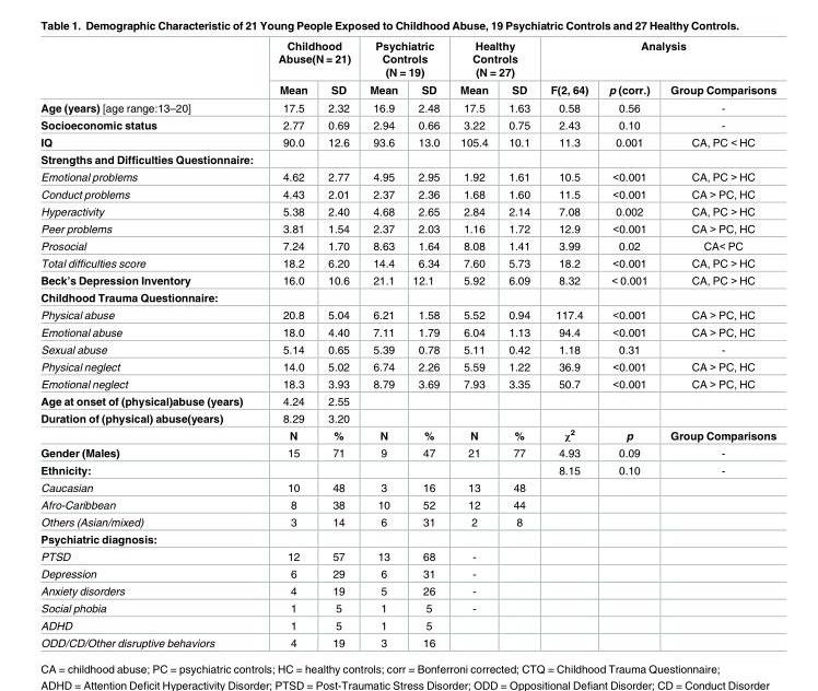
<table><thead><tr><td rowspan="2"></td><td colspan="2">Childhood Abuse(N = 21)</td><td colspan="2">Psychiatric Controls (N = 19)</td><td colspan="2">Healthy Controls (N = 27)</td><td colspan="3">Analysis</td></tr><tr><td>Mean</td><td>SD</td><td>Mean</td><td>SD</td><td>Mean</td><td>SD</td><td>F(2, 64)</td><td>p (corr.)</td><td>Group Comparisons</td></tr></thead><tbody><tr><td>Age (years) [age range:13–20]</td><td>17.5</td><td>2.32</td><td>16.9</td><td>2.48</td><td>17.5</td><td>1.63</td><td>0.58</td><td>0.56</td><td>-</td></tr><tr><td>Socioeconomic status</td><td>2.77</td><td>0.69</td><td>2.94</td><td>0.66</td><td>3.22</td><td>0.75</td><td>2.43</td><td>0.10</td><td>-</td></tr><tr><td>IQ</td><td>90.0</td><td>12.6</td><td>93.6</td><td>13.0</td><td>105.4</td><td>10.1</td><td>11.3</td><td>0.001</td><td>CA, PC &lt; HC</td></tr><tr><td colspan="10">Strengths and Difficulties Questionnaire:</td></tr><tr><td>Emotional problems</td><td>4.62</td><td>2.77</td><td>4.95</td><td>2.95</td><td>1.92</td><td>1.61</td><td>10.5</td><td>&lt;0.001</td><td>CA, PC &gt; HC</td></tr><tr><td>Conduct problems</td><td>4.43</td><td>2.01</td><td>2.37</td><td>2.36</td><td>1.68</td><td>1.60</td><td>11.5</td><td>&lt;0.001</td><td>CA &gt; PC, HC</td></tr><tr><td>Hyperactivity</td><td>5.38</td><td>2.40</td><td>4.68</td><td>2.65</td><td>2.84</td><td>2.14</td><td>7.08</td><td>0.002</td><td>CA, PC &gt; HC</td></tr><tr><td>Peer problems</td><td>3.81</td><td>1.54</td><td>2.37</td><td>2.03</td><td>1.16</td><td>1.72</td><td>12.9</td><td>&lt;0.001</td><td>CA &gt; PC, HC</td></tr><tr><td>Prosocial</td><td>7.24</td><td>1.70</td><td>8.63</td><td>1.64</td><td>8.08</td><td>1.41</td><td>3.99</td><td>0.02</td><td>CA&lt; PC</td></tr><tr><td>Total difficulties score</td><td>18.2</td><td>6.20</td><td>14.4</td><td>6.34</td><td>7.60</td><td>5.73</td><td>18.2</td><td>&lt;0.001</td><td>CA, PC &gt; HC</td></tr><tr><td>Beck’s Depression Inventory</td><td>16.0</td><td>10.6</td><td>21.1</td><td>12.1</td><td>5.92</td><td>6.09</td><td>8.32</td><td>&lt; 0.001</td><td>CA, PC &gt; HC</td></tr><tr><td colspan="10">Childhood Trauma Questionnaire:</td></tr><tr><td>Physical abuse</td><td>20.8</td><td>5.04</td><td>6.21</td><td>1.58</td><td>5.52</td><td>0.94</td><td>117.4</td><td>&lt;0.001</td><td>CA &gt; PC, HC</td></tr><tr><td>Emotional abuse</td><td>18.0</td><td>4.40</td><td>7.11</td><td>1.79</td><td>6.04</td><td>1.13</td><td>94.4</td><td>&lt;0.001</td><td>CA &gt; PC, HC</td></tr><tr><td>Sexual abuse</td><td>5.14</td><td>0.65</td><td>5.39</td><td>0.78</td><td>5.11</td><td>0.42</td><td>1.18</td><td>0.31</td><td>-</td></tr><tr><td>Physical neglect</td><td>14.0</td><td>5.02</td><td>6.74</td><td>2.26</td><td>5.59</td><td>1.22</td><td>36.9</td><td>&lt;0.001</td><td>CA &gt; PC, HC</td></tr><tr><td>Emotional neglect</td><td>18.3</td><td>3.93</td><td>8.79</td><td>3.69</td><td>7.93</td><td>3.35</td><td>50.7</td><td>&lt;0.001</td><td>CA &gt; PC, HC</td></tr><tr><td>Age at onset of (physical)abuse (years)</td><td>4.24</td><td>2.55</td><td></td><td></td><td></td><td></td><td></td><td></td><td></td></tr><tr><td rowspan="2">Duration of (physical) abuse(years)</td><td>8.29</td><td>3.20</td><td></td><td></td><td></td><td></td><td></td><td></td><td></td></tr><tr><td>N</td><td>%</td><td>N</td><td>%</td><td>N</td><td>%</td><td>χ<sup>2</sup></td><td>p</td><td>Group Comparisons</td></tr><tr><td>Gender (Males)</td><td>15</td><td>71</td><td>9</td><td>47</td><td>21</td><td>77</td><td>4.93</td><td>0.09</td><td>-</td></tr><tr><td>Ethnicity:</td><td></td><td></td><td></td><td></td><td></td><td></td><td>8.15</td><td>0.10</td><td>-</td></tr><tr><td>Caucasian</td><td>10</td><td>48</td><td>3</td><td>16</td><td>13</td><td>48</td><td></td><td></td><td></td></tr><tr><td>Afro-Caribbean</td><td>8</td><td>38</td><td>10</td><td>52</td><td>12</td><td>44</td><td></td><td></td><td></td></tr><tr><td>Others (Asian/mixed)</td><td>3</td><td>14</td><td>6</td><td>31</td><td>2</td><td>8</td><td></td><td></td><td></td></tr><tr><td colspan="10">Psychiatric diagnosis:</td></tr><tr><td>PTSD</td><td>12</td><td>57</td><td>13</td><td>68</td><td>-</td><td></td><td></td><td></td><td></td></tr><tr><td>Depression</td><td>6</td><td>29</td><td>6</td><td>31</td><td>-</td><td></td><td></td><td></td><td></td></tr><tr><td>Anxiety disorders</td><td>4</td><td>19</td><td>5</td><td>26</td><td>-</td><td></td><td></td><td></td><td></td></tr><tr><td>Social phobia</td><td>1</td><td>5</td><td>1</td><td>5</td><td>-</td><td></td><td></td><td></td><td></td></tr><tr><td>ADHD</td><td>1</td><td>5</td><td>1</td><td>5</td><td></td><td></td><td></td><td></td><td></td></tr><tr><td>ODD/CD/Other disruptive behaviors</td><td>4</td><td>19</td><td>3</td><td>16</td><td></td><td></td><td></td><td></td><td></td></tr></tbody></table>